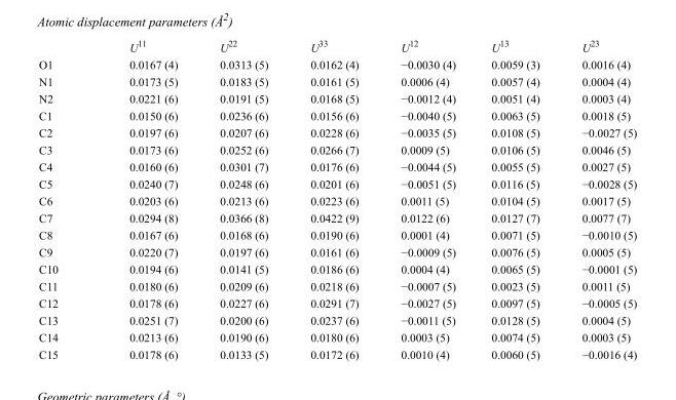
<table><thead><tr><td></td><td>U<sup>11</sup></td><td>U<sup>22</sup></td><td>U<sup>33</sup></td><td>U<sup>12</sup></td><td>U<sup>13</sup></td><td>U<sup>23</sup></td></tr></thead><tbody><tr><td>O1</td><td>0.0167 (4)</td><td>0.0313 (5)</td><td>0.0162 (4)</td><td>−0.0030 (4)</td><td>0.0059 (3)</td><td>0.0016 (4)</td></tr><tr><td>N1</td><td>0.0173 (5)</td><td>0.0183 (5)</td><td>0.0161 (5)</td><td>0.0006 (4)</td><td>0.0057 (4)</td><td>0.0004 (4)</td></tr><tr><td>N2</td><td>0.0221 (6)</td><td>0.0191 (5)</td><td>0.0168 (5)</td><td>−0.0012 (4)</td><td>0.0051 (4)</td><td>0.0003 (4)</td></tr><tr><td>C1</td><td>0.0150 (6)</td><td>0.0236 (6)</td><td>0.0156 (6)</td><td>−0.0040 (5)</td><td>0.0063 (5)</td><td>0.0018 (5)</td></tr><tr><td>C2</td><td>0.0197 (6)</td><td>0.0207 (6)</td><td>0.0228 (6)</td><td>−0.0035 (5)</td><td>0.0108 (5)</td><td>−0.0027 (5)</td></tr><tr><td>C3</td><td>0.0173 (6)</td><td>0.0252 (6)</td><td>0.0266 (7)</td><td>0.0009 (5)</td><td>0.0106 (5)</td><td>0.0046 (5)</td></tr><tr><td>C4</td><td>0.0160 (6)</td><td>0.0301 (7)</td><td>0.0176 (6)</td><td>−0.0044 (5)</td><td>0.0055 (5)</td><td>0.0027 (5)</td></tr><tr><td>C5</td><td>0.0240 (7)</td><td>0.0248 (6)</td><td>0.0201 (6)</td><td>−0.0051 (5)</td><td>0.0116 (5)</td><td>−0.0028 (5)</td></tr><tr><td>C6</td><td>0.0203 (6)</td><td>0.0213 (6)</td><td>0.0223 (6)</td><td>0.0011 (5)</td><td>0.0104 (5)</td><td>0.0017 (5)</td></tr><tr><td>C7</td><td>0.0294 (8)</td><td>0.0366 (8)</td><td>0.0422 (9)</td><td>0.0122 (6)</td><td>0.0127 (7)</td><td>0.0077 (7)</td></tr><tr><td>C8</td><td>0.0167 (6)</td><td>0.0168 (6)</td><td>0.0190 (6)</td><td>0.0001 (4)</td><td>0.0071 (5)</td><td>−0.0010 (5)</td></tr><tr><td>C9</td><td>0.0220 (7)</td><td>0.0197 (6)</td><td>0.0161 (6)</td><td>−0.0009 (5)</td><td>0.0076 (5)</td><td>0.0005 (5)</td></tr><tr><td>C10</td><td>0.0194 (6)</td><td>0.0141 (5)</td><td>0.0186 (6)</td><td>0.0004 (4)</td><td>0.0065 (5)</td><td>−0.0001 (5)</td></tr><tr><td>C11</td><td>0.0180 (6)</td><td>0.0209 (6)</td><td>0.0218 (6)</td><td>−0.0007 (5)</td><td>0.0023 (5)</td><td>0.0011 (5)</td></tr><tr><td>C12</td><td>0.0178 (6)</td><td>0.0227 (6)</td><td>0.0291 (7)</td><td>−0.0027 (5)</td><td>0.0097 (5)</td><td>−0.0005 (5)</td></tr><tr><td>C13</td><td>0.0251 (7)</td><td>0.0200 (6)</td><td>0.0237 (6)</td><td>−0.0011 (5)</td><td>0.0128 (5)</td><td>0.0004 (5)</td></tr><tr><td>C14</td><td>0.0213 (6)</td><td>0.0190 (6)</td><td>0.0180 (6)</td><td>0.0003 (5)</td><td>0.0074 (5)</td><td>0.0003 (5)</td></tr><tr><td>C15</td><td>0.0178 (6)</td><td>0.0133 (5)</td><td>0.0172 (6)</td><td>0.0010 (4)</td><td>0.0060 (5)</td><td>−0.0016 (4)</td></tr></tbody></table>